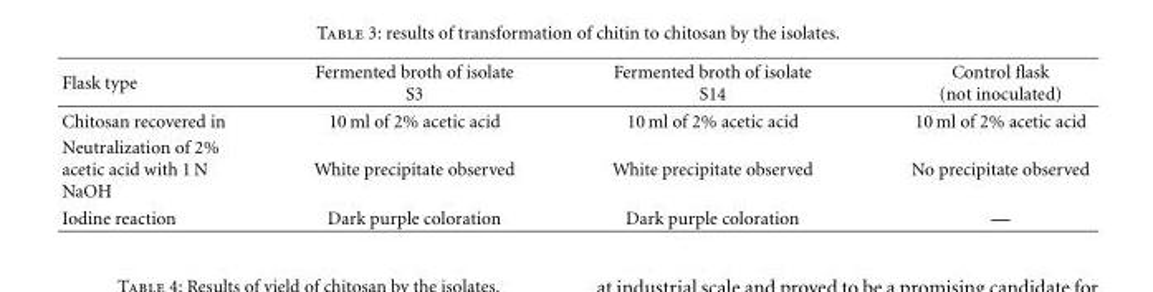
<table><thead><tr><td>Flask type</td><td>Fermented broth of isolate S3</td><td>Fermented broth of isolate S14</td><td>Control flask (not inoculated)</td></tr></thead><tbody><tr><td>Chitosan recovered in</td><td>10 ml of 2% acetic acid</td><td>10 ml of 2% acetic acid</td><td>10 ml of 2% acetic acid</td></tr><tr><td>Neutralization of 2% acetic acid with 1 N NaOH</td><td>White precipitate observed</td><td>White precipitate observed</td><td>No precipitate observed</td></tr><tr><td>Iodine reaction</td><td>Dark purple coloration</td><td>Dark purple coloration</td><td>—</td></tr></tbody></table>